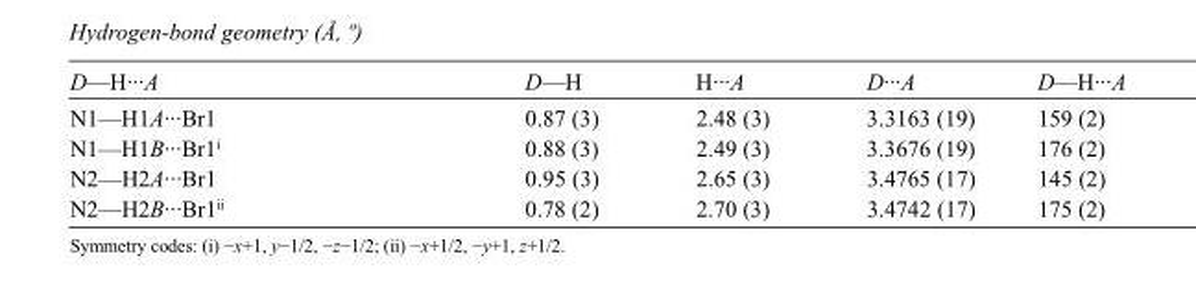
<table><tbody><tr><td>D—H···A</td><td>D—H</td><td>H···A</td><td>D···A</td><td>D—H···A</td></tr><tr><td>N1—H1A···Br1</td><td>0.87 (3)</td><td>2.48 (3)</td><td>3.3163 (19)</td><td>159 (2)</td></tr><tr><td>N1—H1B···Br1<sup>i</sup></td><td>0.88 (3)</td><td>2.49 (3)</td><td>3.3676 (19)</td><td>176 (2)</td></tr><tr><td>N2—H2A···Br1</td><td>0.95 (3)</td><td>2.65 (3)</td><td>3.4765 (17)</td><td>145 (2)</td></tr><tr><td>N2—H2B···Br1<sup>ii</sup></td><td>0.78 (2)</td><td>2.70 (3)</td><td>3.4742 (17)</td><td>175 (2)</td></tr></tbody></table>